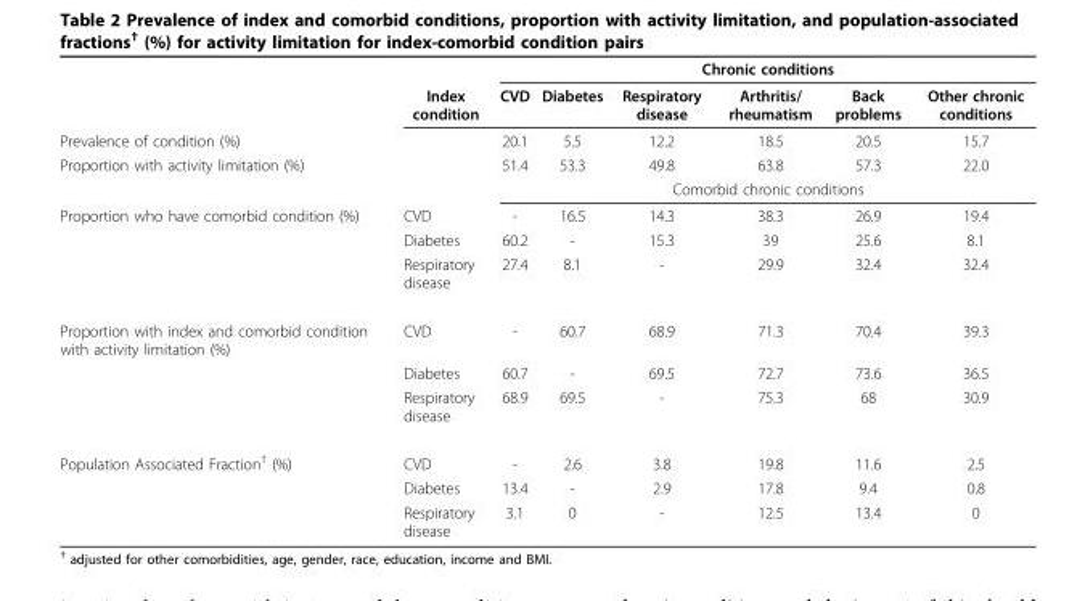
<table><thead><tr><td rowspan="2"></td><td rowspan="2">Index condition</td><td colspan="6">Chronic conditions</td></tr><tr><td>CVD</td><td>Diabetes</td><td>Respiratory disease</td><td>Arthritis/ rheumatism</td><td>Back problems</td><td>Other chronic conditions</td></tr></thead><tbody><tr><td>Prevalence of condition (%)</td><td></td><td>20.1</td><td>5.5</td><td>12.2</td><td>18.5</td><td>20.5</td><td>15.7</td></tr><tr><td rowspan="2">Proportion with activity limitation (%)</td><td></td><td>51.4</td><td>53.3</td><td>49.8</td><td>63.8</td><td>57.3</td><td>22.0</td></tr><tr><td></td><td colspan="6">Comorbid chronic conditions</td></tr><tr><td rowspan="3">Proportion who have comorbid condition (%)</td><td>CVD</td><td>-</td><td>16.5</td><td>14.3</td><td>38.3</td><td>26.9</td><td>19.4</td></tr><tr><td>Diabetes</td><td>60.2</td><td>-</td><td>15.3</td><td>39</td><td>25.6</td><td>8.1</td></tr><tr><td>Respiratory disease</td><td>27.4</td><td>8.1</td><td>-</td><td>29.9</td><td>32.4</td><td>32.4</td></tr><tr><td rowspan="3">Proportion with index and comorbid condition with activity limitation (%)</td><td>CVD</td><td>-</td><td>60.7</td><td>68.9</td><td>71.3</td><td>70.4</td><td>39.3</td></tr><tr><td>Diabetes</td><td>60.7</td><td>-</td><td>69.5</td><td>72.7</td><td>73.6</td><td>36.5</td></tr><tr><td>Respiratory disease</td><td>68.9</td><td>69.5</td><td>-</td><td>75.3</td><td>68</td><td>30.9</td></tr><tr><td rowspan="3">Population Associated Fraction<sup>†</sup> (%)</td><td>CVD</td><td>-</td><td>2.6</td><td>3.8</td><td>19.8</td><td>11.6</td><td>2.5</td></tr><tr><td>Diabetes</td><td>13.4</td><td>-</td><td>2.9</td><td>17.8</td><td>9.4</td><td>0.8</td></tr><tr><td>Respiratory disease</td><td>3.1</td><td>0</td><td>-</td><td>12.5</td><td>13.4</td><td>0</td></tr></tbody></table>